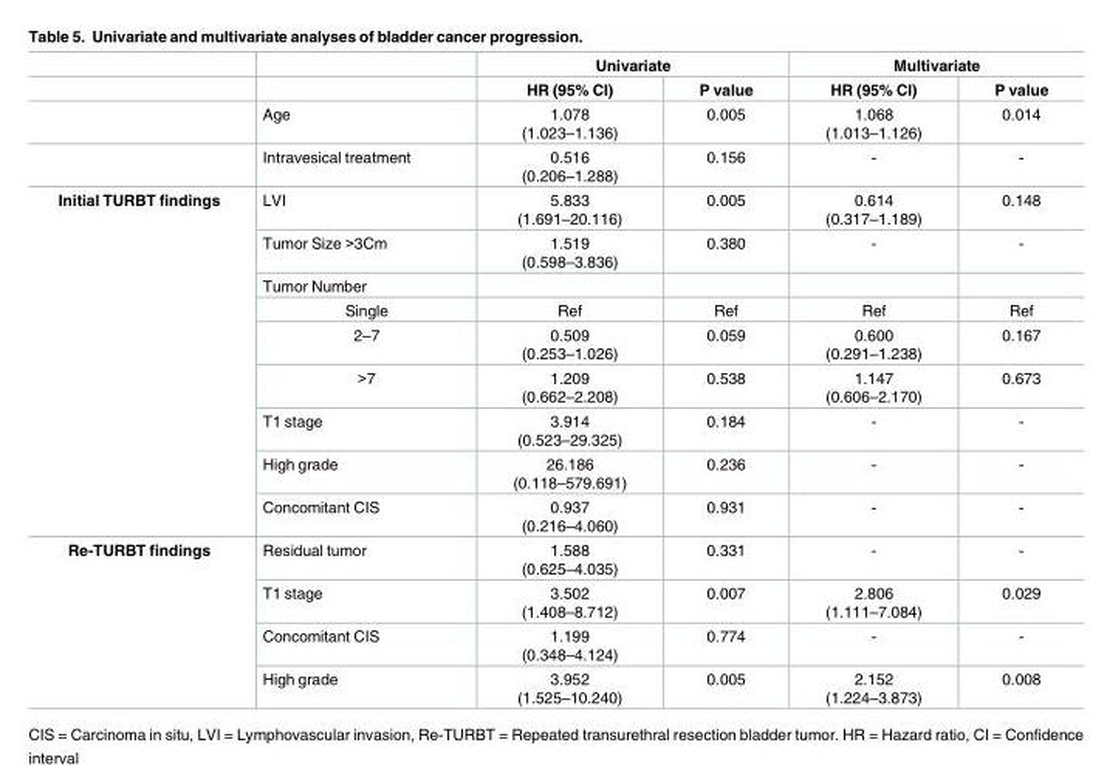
<table><thead><tr><td rowspan="2"></td><td rowspan="2"></td><td colspan="2">Univariate</td><td colspan="2">Multivariate</td></tr><tr><td>HR (95% CI)</td><td>P value</td><td>HR (95% CI)</td><td>P value</td></tr></thead><tbody><tr><td></td><td>Age</td><td>1.078 (1.023–1.136)</td><td>0.005</td><td>1.068 (1.013–1.126)</td><td>0.014</td></tr><tr><td></td><td>Intravesical treatment</td><td>0.516 (0.206–1.288)</td><td>0.156</td><td>-</td><td>-</td></tr><tr><td rowspan="9">Initial TURBT findings</td><td>LVI</td><td>5.833 (1.691–20.116)</td><td>0.005</td><td>0.614 (0.317–1.189)</td><td>0.148</td></tr><tr><td>Tumor Size &gt;3Cm</td><td>1.519 (0.598–3.836)</td><td>0.380</td><td>-</td><td>-</td></tr><tr><td>Tumor Number</td><td></td><td></td><td></td><td></td></tr><tr><td>Single</td><td>Ref</td><td>Ref</td><td>Ref</td><td>Ref</td></tr><tr><td>2–7</td><td>0.509 (0.253–1.026)</td><td>0.059</td><td>0.600 (0.291–1.238)</td><td>0.167</td></tr><tr><td>&gt;7</td><td>1.209 (0.662–2.208)</td><td>0.538</td><td>1.147 (0.606–2.170)</td><td>0.673</td></tr><tr><td>T1 stage</td><td>3.914 (0.523–29.325)</td><td>0.184</td><td>-</td><td>-</td></tr><tr><td>High grade</td><td>26.186 (0.118–579.691)</td><td>0.236</td><td>-</td><td>-</td></tr><tr><td>Concomitant CIS</td><td>0.937 (0.216–4.060)</td><td>0.931</td><td>-</td><td>-</td></tr><tr><td rowspan="4">Re-TURBT findings</td><td>Residual tumor</td><td>1.588 (0.625–4.035)</td><td>0.331</td><td>-</td><td>-</td></tr><tr><td>T1 stage</td><td>3.502 (1.408–8.712)</td><td>0.007</td><td>2.806 (1.111–7.084)</td><td>0.029</td></tr><tr><td>Concomitant CIS</td><td>1.199 (0.348–4.124)</td><td>0.774</td><td>-</td><td>-</td></tr><tr><td>High grade</td><td>3.952 (1.525–10.240)</td><td>0.005</td><td>2.152 (1.224–3.873)</td><td>0.008</td></tr></tbody></table>